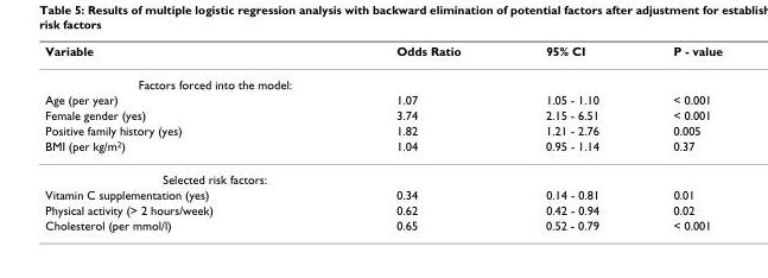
<table><thead><tr><td>Variable</td><td>Odds Ratio</td><td>95% CI</td><td>P - value</td></tr></thead><tbody><tr><td colspan="4">Factors forced into the model:</td></tr><tr><td>Age (per year)</td><td>1.07</td><td>1.05 - 1.10</td><td>&lt; 0.001</td></tr><tr><td>Female gender (yes)</td><td>3.74</td><td>2.15 - 6.51</td><td>&lt; 0.001</td></tr><tr><td>Positive family history (yes)</td><td>1.82</td><td>1.21 - 2.76</td><td>0.005</td></tr><tr><td>BMI (per kg/m<sup>2</sup>)</td><td>1.04</td><td>0.95 - 1.14</td><td>0.37</td></tr><tr><td colspan="4">Selected risk factors:</td></tr><tr><td>Vitamin C supplementation (yes)</td><td>0.34</td><td>0.14 - 0.81</td><td>0.01</td></tr><tr><td>Physical activity (&gt; 2 hours/week)</td><td>0.62</td><td>0.42 - 0.94</td><td>0.02</td></tr><tr><td>Cholesterol (per mmol/l)</td><td>0.65</td><td>0.52 - 0.79</td><td>&lt; 0.001</td></tr></tbody></table>